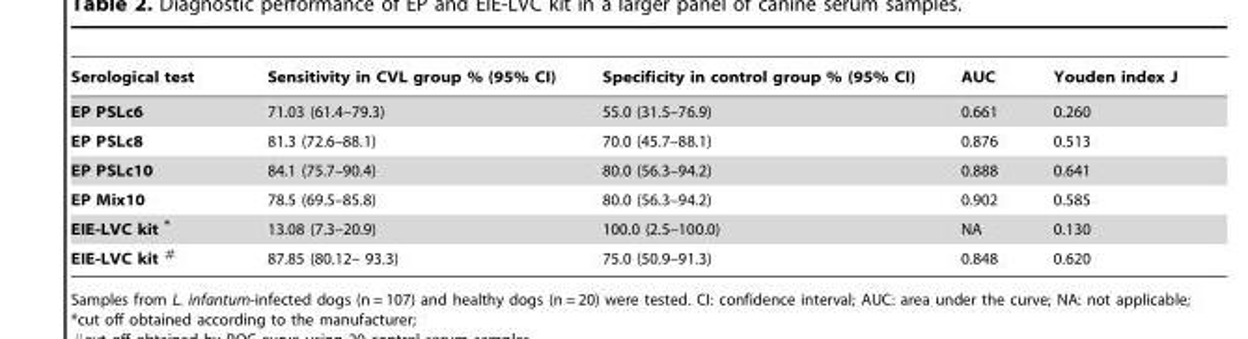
<table><thead><tr><td>Serological test</td><td>Sensitivity in CVL group % (95% CI)</td><td>Specificity in control group % (95% CI)</td><td>AUC</td><td>Youden index J</td></tr></thead><tbody><tr><td>EP PSLc6</td><td>71.03 (61.4–79.3)</td><td>55.0 (31.5–76.9)</td><td>0.661</td><td>0.260</td></tr><tr><td>EP PSLc8</td><td>81.3 (72.6–88.1)</td><td>70.0 (45.7–88.1)</td><td>0.876</td><td>0.513</td></tr><tr><td>EP PSLc10</td><td>84.1 (75.7–90.4)</td><td>80.0 (56.3–94.2)</td><td>0.888</td><td>0.641</td></tr><tr><td>EP Mix10</td><td>78.5 (69.5–85.8)</td><td>80.0 (56.3–94.2)</td><td>0.902</td><td>0.585</td></tr><tr><td>EIE-LVC kit *</td><td>13.08 (7.3–20.9)</td><td>100.0 (2.5–100.0)</td><td>NA</td><td>0.130</td></tr><tr><td>EIE-LVC kit #</td><td>87.85 (80.12– 93.3)</td><td>75.0 (50.9–91.3)</td><td>0.848</td><td>0.620</td></tr></tbody></table>